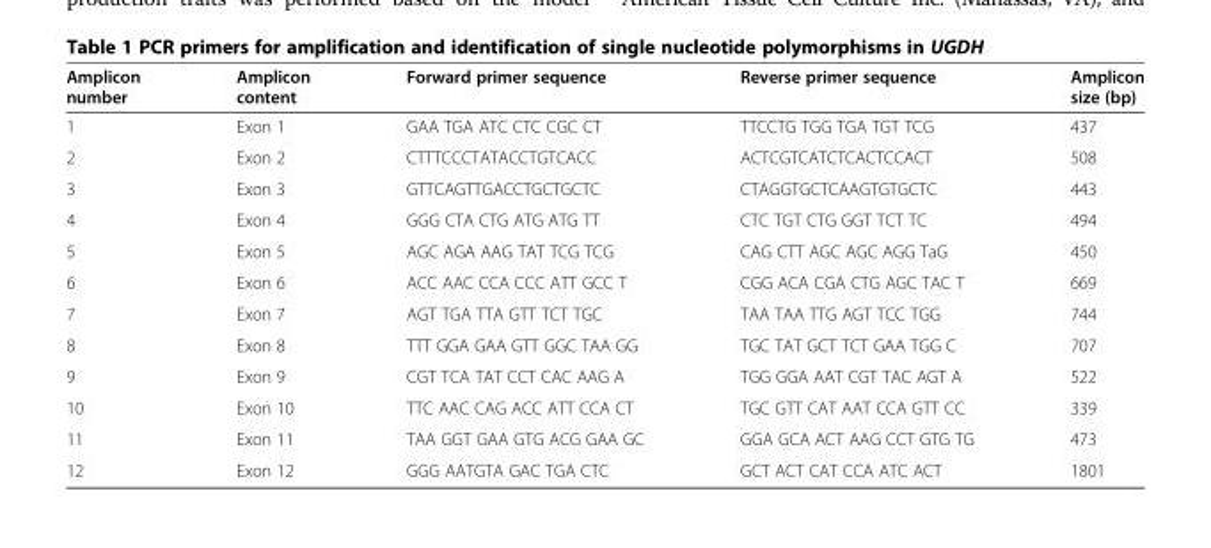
<table><thead><tr><td>Amplicon number</td><td>Amplicon content</td><td>Forward primer sequence</td><td>Reverse primer sequence</td><td>Amplicon size (bp)</td></tr></thead><tbody><tr><td>1</td><td>Exon 1</td><td>GAA TGA ATC CTC CGC CT</td><td>TTCCTG TGG TGA TGT TCG</td><td>437</td></tr><tr><td>2</td><td>Exon 2</td><td>CTTTCCCTATACCTGTCACC</td><td>ACTCGTCATCTCACTCCACT</td><td>508</td></tr><tr><td>3</td><td>Exon 3</td><td>GTTCAGTTGACCTGCTGCTC</td><td>CTAGGTGCTCAAGTGTGCTC</td><td>443</td></tr><tr><td>4</td><td>Exon 4</td><td>GGG CTA CTG ATG ATG TT</td><td>CTC TGT CTG GGT TCT TC</td><td>494</td></tr><tr><td>5</td><td>Exon 5</td><td>AGC AGA AAG TAT TCG TCG</td><td>CAG CTT AGC AGC AGG TaG</td><td>450</td></tr><tr><td>6</td><td>Exon 6</td><td>ACC AAC CCA CCC ATT GCC T</td><td>CGG ACA CGA CTG AGC TAC T</td><td>669</td></tr><tr><td>7</td><td>Exon 7</td><td>AGT TGA TTA GTT TCT TGC</td><td>TAA TAA TTG AGT TCC TGG</td><td>744</td></tr><tr><td>8</td><td>Exon 8</td><td>TTT GGA GAA GTT GGC TAA GG</td><td>TGC TAT GCT TCT GAA TGG C</td><td>707</td></tr><tr><td>9</td><td>Exon 9</td><td>CGT TCA TAT CCT CAC AAG A</td><td>TGG GGA AAT CGT TAC AGT A</td><td>522</td></tr><tr><td>10</td><td>Exon 10</td><td>TTC AAC CAG ACC ATT CCA CT</td><td>TGC GTT CAT AAT CCA GTT CC</td><td>339</td></tr><tr><td>11</td><td>Exon 11</td><td>TAA GGT GAA GTG ACG GAA GC</td><td>GGA GCA ACT AAG CCT GTG TG</td><td>473</td></tr><tr><td>12</td><td>Exon 12</td><td>GGG AATGTA GAC TGA CTC</td><td>GCT ACT CAT CCA ATC ACT</td><td>1801</td></tr></tbody></table>